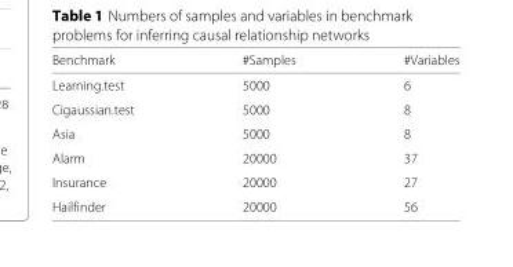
<table><thead><tr><td>Benchmark</td><td>#Samples</td><td>#Variables</td></tr></thead><tbody><tr><td>Learning.test</td><td>5000</td><td>6</td></tr><tr><td>Cigaussian.test</td><td>5000</td><td>8</td></tr><tr><td>Asia</td><td>5000</td><td>8</td></tr><tr><td>Alarm</td><td>20000</td><td>37</td></tr><tr><td>Insurance</td><td>20000</td><td>27</td></tr><tr><td>Hailfinder</td><td>20000</td><td>56</td></tr></tbody></table>